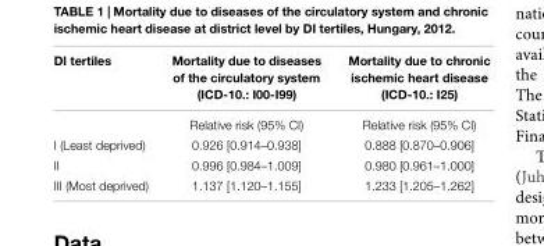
<table><thead><tr><td>DI tertiles</td><td>Mortality due to diseases of the circulatory system (ICD-10.: I00-I99)</td><td>Mortality due to chronic ischemic heart disease (ICD-10.: I25)</td></tr></thead><tbody><tr><td></td><td>Relative risk (95% CI)</td><td>Relative risk (95% CI)</td></tr><tr><td>I (Least deprived)</td><td>0.926 [0.914–0.938]</td><td>0.888 [0.870–0.906]</td></tr><tr><td>II</td><td>0.996 [0.984–1.009]</td><td>0.980 [0.961–1.000]</td></tr><tr><td>III (Most deprived)</td><td>1.137 [1.120–1.155]</td><td>1.233 [1.205–1.262]</td></tr></tbody></table>